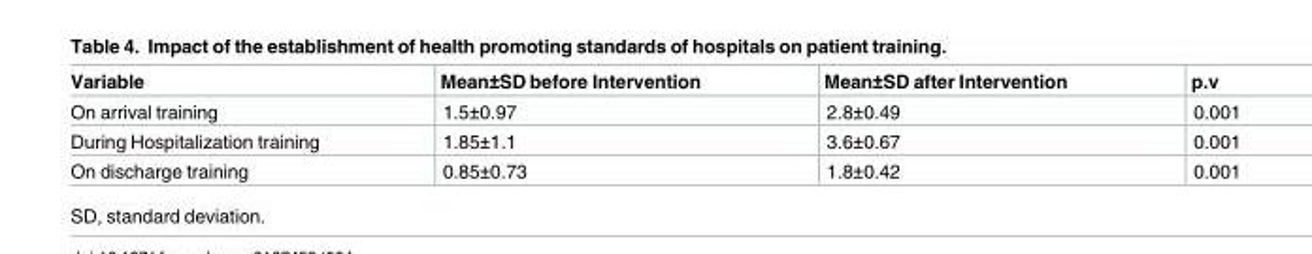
<table><thead><tr><td>Variable</td><td>Mean±SD before Intervention</td><td>Mean±SD after Intervention</td><td>p.v</td></tr></thead><tbody><tr><td>On arrival training</td><td>1.5±0.97</td><td>2.8±0.49</td><td>0.001</td></tr><tr><td>During Hospitalization training</td><td>1.85±1.1</td><td>3.6±0.67</td><td>0.001</td></tr><tr><td>On discharge training</td><td>0.85±0.73</td><td>1.8±0.42</td><td>0.001</td></tr></tbody></table>